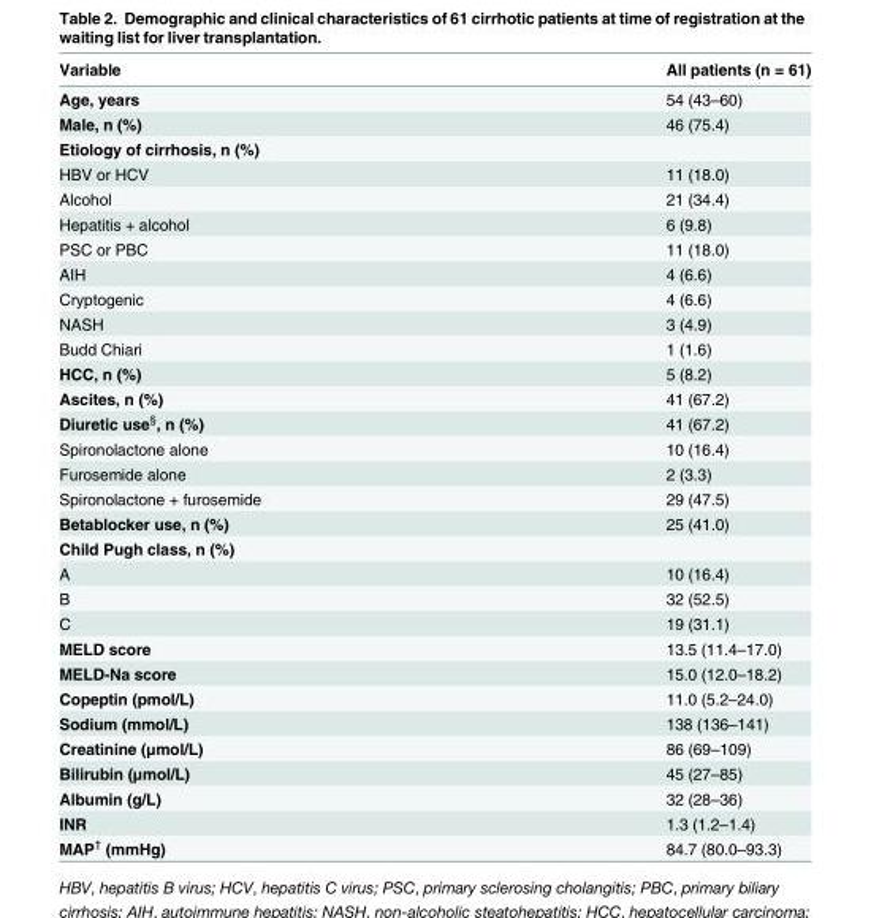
<table><thead><tr><td>Variable</td><td>All patients (n = 61)</td></tr></thead><tbody><tr><td>Age, years</td><td>54 (43–60)</td></tr><tr><td>Male, n (%)</td><td>46 (75.4)</td></tr><tr><td colspan="2">Etiology of cirrhosis, n (%)</td></tr><tr><td>HBV or HCV</td><td>11 (18.0)</td></tr><tr><td>Alcohol</td><td>21 (34.4)</td></tr><tr><td>Hepatitis + alcohol</td><td>6 (9.8)</td></tr><tr><td>PSC or PBC</td><td>11 (18.0)</td></tr><tr><td>AIH</td><td>4 (6.6)</td></tr><tr><td>Cryptogenic</td><td>4 (6.6)</td></tr><tr><td>NASH</td><td>3 (4.9)</td></tr><tr><td>Budd Chiari</td><td>1 (1.6)</td></tr><tr><td>HCC, n (%)</td><td>5 (8.2)</td></tr><tr><td>Ascites, n (%)</td><td>41 (67.2)</td></tr><tr><td>Diuretic use<sup>§</sup>, n (%)</td><td>41 (67.2)</td></tr><tr><td>Spironolactone alone</td><td>10 (16.4)</td></tr><tr><td>Furosemide alone</td><td>2 (3.3)</td></tr><tr><td>Spironolactone + furosemide</td><td>29 (47.5)</td></tr><tr><td>Betablocker use, n (%)</td><td>25 (41.0)</td></tr><tr><td colspan="2">Child Pugh class, n (%)</td></tr><tr><td>A</td><td>10 (16.4)</td></tr><tr><td>B</td><td>32 (52.5)</td></tr><tr><td>C</td><td>19 (31.1)</td></tr><tr><td>MELD score</td><td>13.5 (11.4–17.0)</td></tr><tr><td>MELD-Na score</td><td>15.0 (12.0–18.2)</td></tr><tr><td>Copeptin (pmol/L)</td><td>11.0 (5.2–24.0)</td></tr><tr><td>Sodium (mmol/L)</td><td>138 (136–141)</td></tr><tr><td>Creatinine (μmol/L)</td><td>86 (69–109)</td></tr><tr><td>Bilirubin (μmol/L)</td><td>45 (27–85)</td></tr><tr><td>Albumin (g/L)</td><td>32 (28–36)</td></tr><tr><td>INR</td><td>1.3 (1.2–1.4)</td></tr><tr><td>MAP<sup>†</sup> (mmHg)</td><td>84.7 (80.0–93.3)</td></tr></tbody></table>